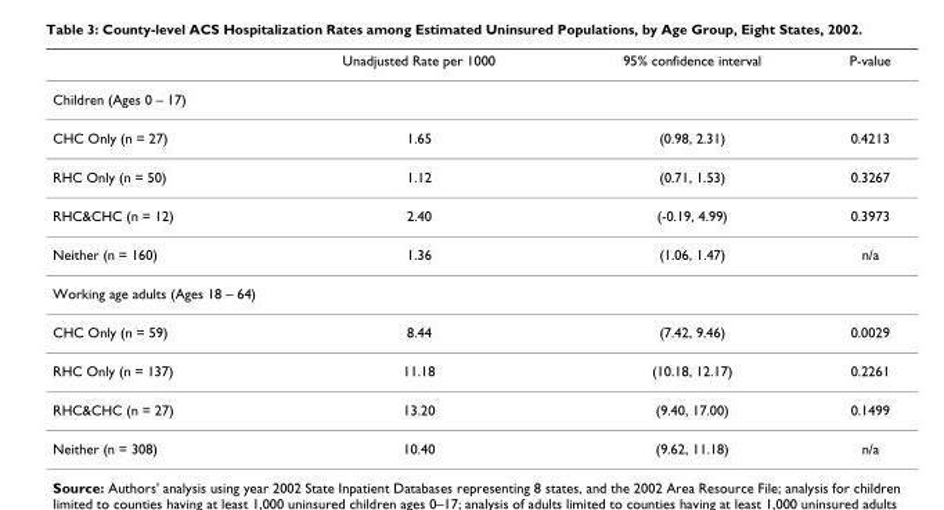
<table><thead><tr><td></td><td>Unadjusted Rate per 1000</td><td>95% confidence interval</td><td>P-value</td></tr></thead><tbody><tr><td colspan="4">Children (Ages 0 – 17)</td></tr><tr><td>CHC Only (n = 27)</td><td>1.65</td><td>(0.98, 2.31)</td><td>0.4213</td></tr><tr><td>RHC Only (n = 50)</td><td>1.12</td><td>(0.71, 1.53)</td><td>0.3267</td></tr><tr><td>RHC&amp;CHC (n = 12)</td><td>2.40</td><td>(-0.19, 4.99)</td><td>0.3973</td></tr><tr><td>Neither (n = 160)</td><td>1.36</td><td>(1.06, 1.47)</td><td>n/a</td></tr><tr><td colspan="4">Working age adults (Ages 18 – 64)</td></tr><tr><td>CHC Only (n = 59)</td><td>8.44</td><td>(7.42, 9.46)</td><td>0.0029</td></tr><tr><td>RHC Only (n = 137)</td><td>11.18</td><td>(10.18, 12.17)</td><td>0.2261</td></tr><tr><td>RHC&amp;CHC (n = 27)</td><td>13.20</td><td>(9.40, 17.00)</td><td>0.1499</td></tr><tr><td>Neither (n = 308)</td><td>10.40</td><td>(9.62, 11.18)</td><td>n/a</td></tr></tbody></table>